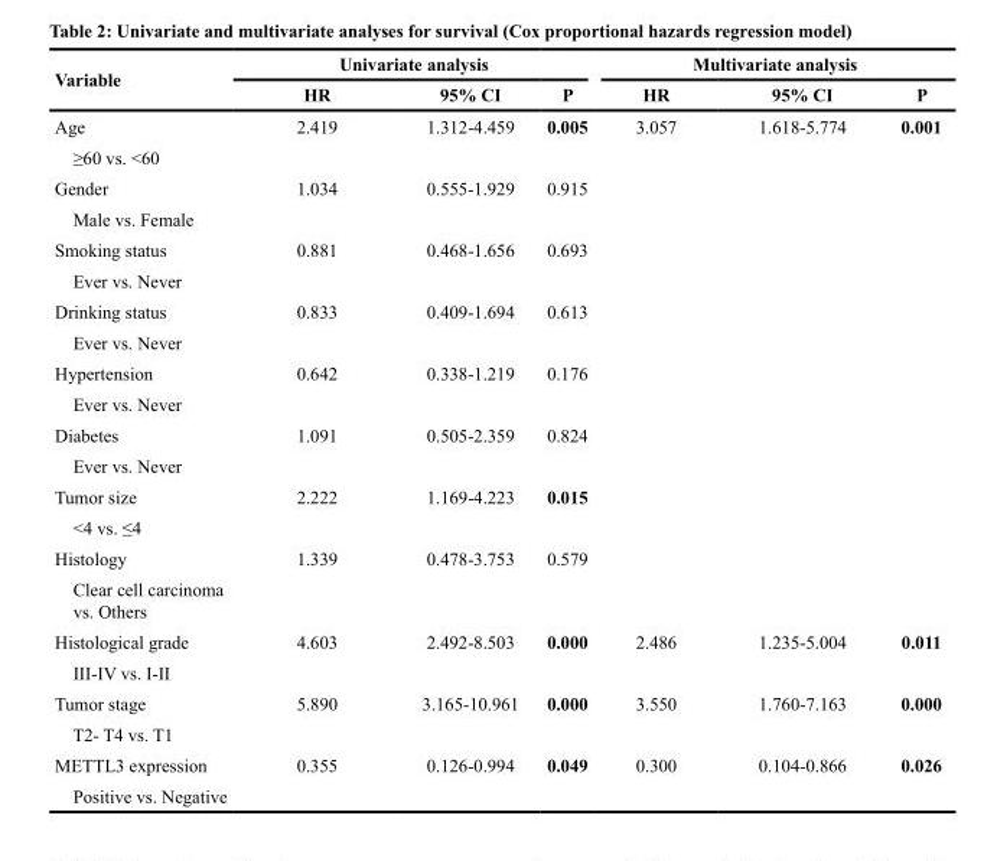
<table><thead><tr><td rowspan="2">Variable</td><td colspan="3">Univariate analysis</td><td colspan="3">Multivariate analysis</td></tr><tr><td>HR</td><td>95% CI</td><td>P</td><td>HR</td><td>95% CI</td><td>P</td></tr></thead><tbody><tr><td>Age</td><td>2.419</td><td>1.312-4.459</td><td>0.005</td><td>3.057</td><td>1.618-5.774</td><td>0.001</td></tr><tr><td colspan="7">≥60 vs. &lt;60</td></tr><tr><td>Gender</td><td>1.034</td><td>0.555-1.929</td><td>0.915</td><td></td><td></td><td></td></tr><tr><td colspan="7">Male vs. Female</td></tr><tr><td>Smoking status</td><td>0.881</td><td>0.468-1.656</td><td>0.693</td><td></td><td></td><td></td></tr><tr><td colspan="7">Ever vs. Never</td></tr><tr><td>Drinking status</td><td>0.833</td><td>0.409-1.694</td><td>0.613</td><td></td><td></td><td></td></tr><tr><td colspan="7">Ever vs. Never</td></tr><tr><td>Hypertension</td><td>0.642</td><td>0.338-1.219</td><td>0.176</td><td></td><td></td><td></td></tr><tr><td colspan="7">Ever vs. Never</td></tr><tr><td>Diabetes</td><td>1.091</td><td>0.505-2.359</td><td>0.824</td><td></td><td></td><td></td></tr><tr><td colspan="7">Ever vs. Never</td></tr><tr><td>Tumor size</td><td>2.222</td><td>1.169-4.223</td><td>0.015</td><td></td><td></td><td></td></tr><tr><td colspan="7">&lt;4 vs. ≤4</td></tr><tr><td>Histology</td><td>1.339</td><td>0.478-3.753</td><td>0.579</td><td></td><td></td><td></td></tr><tr><td colspan="7">Clear cell carcinoma vs. Others</td></tr><tr><td>Histological grade</td><td>4.603</td><td>2.492-8.503</td><td>0.000</td><td>2.486</td><td>1.235-5.004</td><td>0.011</td></tr><tr><td colspan="7">III-IV vs. I-II</td></tr><tr><td>Tumor stage</td><td>5.890</td><td>3.165-10.961</td><td>0.000</td><td>3.550</td><td>1.760-7.163</td><td>0.000</td></tr><tr><td colspan="7">T2- T4 vs. T1</td></tr><tr><td>METTL3 expression</td><td>0.355</td><td>0.126-0.994</td><td>0.049</td><td>0.300</td><td>0.104-0.866</td><td>0.026</td></tr><tr><td>Positive vs. Negative</td><td></td><td></td><td></td><td></td><td></td><td></td></tr></tbody></table>